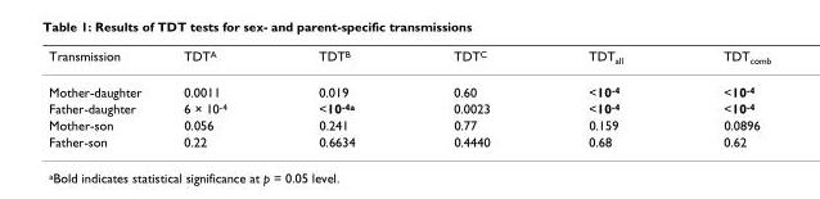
<table><thead><tr><td>Transmission</td><td>TDT<sup>A</sup></td><td>TDT<sup>B</sup></td><td>TDT<sup>C</sup></td><td>TDT<sub>all</sub></td><td>TDT<sub>comb</sub></td></tr></thead><tbody><tr><td>Mother-daughter</td><td>0.0011</td><td>0.019</td><td>0.60</td><td>&lt;10<sup>-4</sup></td><td>&lt;10<sup>-4</sup></td></tr><tr><td>Father-daughter</td><td>6 × 10<sup>-4</sup></td><td>&lt;10<sup>-4a</sup></td><td>0.0023</td><td>&lt;10<sup>-4</sup></td><td>&lt;10<sup>-4</sup></td></tr><tr><td>Mother-son</td><td>0.056</td><td>0.241</td><td>0.77</td><td>0.159</td><td>0.0896</td></tr><tr><td>Father-son</td><td>0.22</td><td>0.6634</td><td>0.4440</td><td>0.68</td><td>0.62</td></tr></tbody></table>